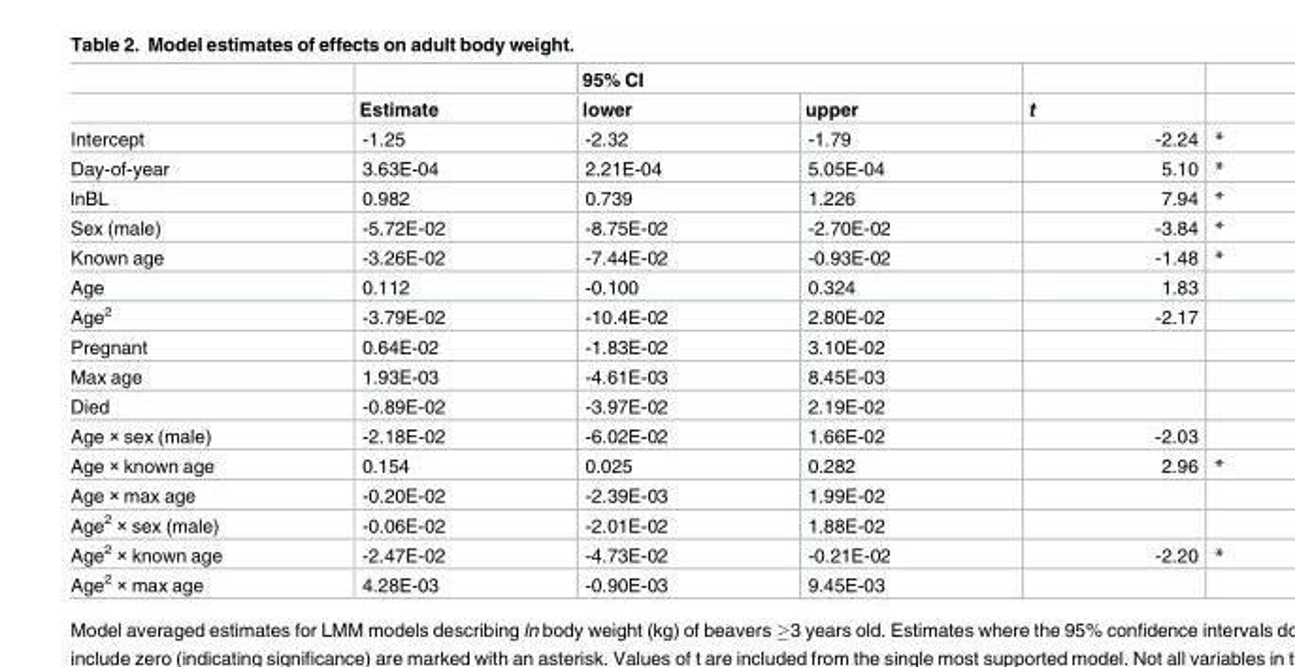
<table><thead><tr><td rowspan="2"></td><td rowspan="2">Estimate</td><td colspan="2">95% CI</td><td rowspan="2">t</td><td rowspan="2"></td></tr><tr><td>lower</td><td>upper</td></tr></thead><tbody><tr><td>Intercept</td><td>-1.25</td><td>-2.32</td><td>-1.79</td><td>-2.24</td><td>*</td></tr><tr><td>Day-of-year</td><td>3.63E-04</td><td>2.21E-04</td><td>5.05E-04</td><td>5.10</td><td>*</td></tr><tr><td>lnBL</td><td>0.982</td><td>0.739</td><td>1.226</td><td>7.94</td><td>*</td></tr><tr><td>Sex (male)</td><td>-5.72E-02</td><td>-8.75E-02</td><td>-2.70E-02</td><td>-3.84</td><td>*</td></tr><tr><td>Known age</td><td>-3.26E-02</td><td>-7.44E-02</td><td>-0.93E-02</td><td>-1.48</td><td>*</td></tr><tr><td>Age</td><td>0.112</td><td>-0.100</td><td>0.324</td><td>1.83</td><td></td></tr><tr><td>Age<sup>2</sup></td><td>-3.79E-02</td><td>-10.4E-02</td><td>2.80E-02</td><td>-2.17</td><td></td></tr><tr><td>Pregnant</td><td>0.64E-02</td><td>-1.83E-02</td><td>3.10E-02</td><td></td><td></td></tr><tr><td>Max age</td><td>1.93E-03</td><td>-4.61E-03</td><td>8.45E-03</td><td></td><td></td></tr><tr><td>Died</td><td>-0.89E-02</td><td>-3.97E-02</td><td>2.19E-02</td><td></td><td></td></tr><tr><td>Age × sex (male)</td><td>-2.18E-02</td><td>-6.02E-02</td><td>1.66E-02</td><td>-2.03</td><td></td></tr><tr><td>Age × known age</td><td>0.154</td><td>0.025</td><td>0.282</td><td>2.96</td><td>*</td></tr><tr><td>Age × max age</td><td>-0.20E-02</td><td>-2.39E-03</td><td>1.99E-02</td><td></td><td></td></tr><tr><td>Age<sup>2</sup> × sex (male)</td><td>-0.06E-02</td><td>-2.01E-02</td><td>1.88E-02</td><td></td><td></td></tr><tr><td>Age<sup>2</sup> × known age</td><td>-2.47E-02</td><td>-4.73E-02</td><td>-0.21E-02</td><td>-2.20</td><td>*</td></tr><tr><td>Age<sup>2</sup> × max age</td><td>4.28E-03</td><td>-0.90E-03</td><td>9.45E-03</td><td></td><td></td></tr></tbody></table>